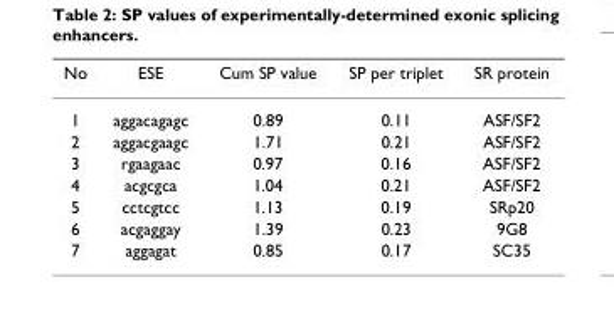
<table><thead><tr><td>No</td><td>ESE</td><td>Cum SP value</td><td>SP per triplet</td><td>SR protein</td></tr></thead><tbody><tr><td>1</td><td>aggacagagc</td><td>0.89</td><td>0.11</td><td>ASF/SF2</td></tr><tr><td>2</td><td>aggacgaagc</td><td>1.71</td><td>0.21</td><td>ASF/SF2</td></tr><tr><td>3</td><td>rgaagaac</td><td>0.97</td><td>0.16</td><td>ASF/SF2</td></tr><tr><td>4</td><td>acgcgca</td><td>1.04</td><td>0.21</td><td>ASF/SF2</td></tr><tr><td>5</td><td>cctcgtcc</td><td>1.13</td><td>0.19</td><td>SRp20</td></tr><tr><td>6</td><td>acgaggay</td><td>1.39</td><td>0.23</td><td>9G8</td></tr><tr><td>7</td><td>aggagat</td><td>0.85</td><td>0.17</td><td>SC35</td></tr></tbody></table>